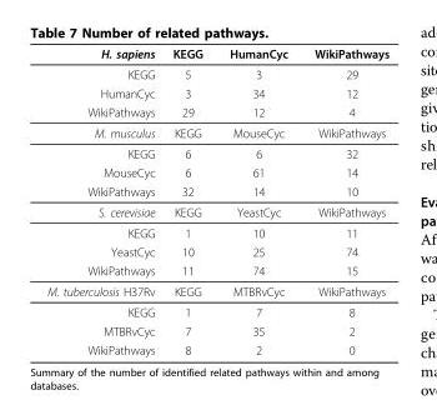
<table><thead><tr><td>H. sapiens</td><td>KEGG</td><td>HumanCyc</td><td>WikiPathways</td></tr></thead><tbody><tr><td>KEGG</td><td>5</td><td>3</td><td>29</td></tr><tr><td>HumanCyc</td><td>3</td><td>34</td><td>12</td></tr><tr><td>WikiPathways</td><td>29</td><td>12</td><td>4</td></tr><tr><td>M. musculus</td><td>KEGG</td><td>MouseCyc</td><td>WikiPathways</td></tr><tr><td>KEGG</td><td>6</td><td>6</td><td>32</td></tr><tr><td>MouseCyc</td><td>6</td><td>61</td><td>14</td></tr><tr><td>WikiPathways</td><td>32</td><td>14</td><td>10</td></tr><tr><td>S. cerevisiae</td><td>KEGG</td><td>YeastCyc</td><td>WikiPathways</td></tr><tr><td>KEGG</td><td>1</td><td>10</td><td>11</td></tr><tr><td>YeastCyc</td><td>10</td><td>25</td><td>74</td></tr><tr><td>WikiPathways</td><td>11</td><td>74</td><td>15</td></tr><tr><td>M. tuberculosis H37Rv</td><td>KEGG</td><td>MTBRvCyc</td><td>WikiPathways</td></tr><tr><td>KEGG</td><td>1</td><td>7</td><td>8</td></tr><tr><td>MTBRvCyc</td><td>7</td><td>35</td><td>2</td></tr><tr><td>WikiPathways</td><td>8</td><td>2</td><td>0</td></tr></tbody></table>